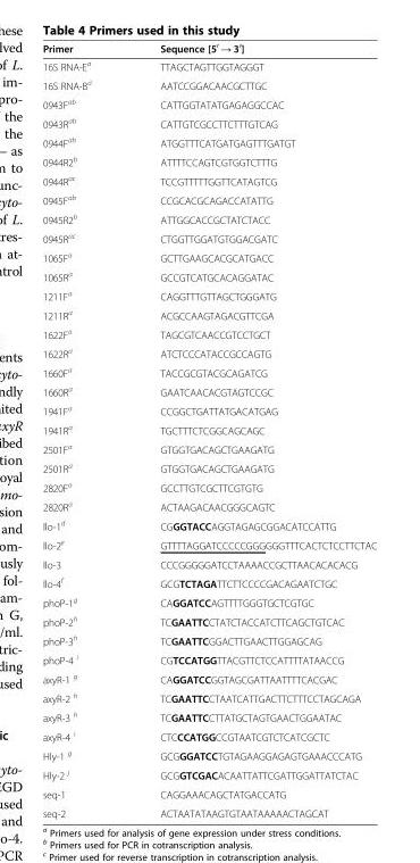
<table><thead><tr><td>Primer</td><td>Sequence [5<sup>′</sup> → 3<sup>′</sup>]</td></tr></thead><tbody><tr><td>16S RNA-E<sup>a</sup></td><td>TTAGCTAGTTGGTAGGGT</td></tr><tr><td>16S RNA-B<sup>a</sup></td><td>AATCCGGACAACGCTTGC</td></tr><tr><td>0943F<sup>ab</sup></td><td>CATTGGTATATGAGAGGCCAC</td></tr><tr><td>0943R<sup>ab</sup></td><td>CATTGTCGCCTTCTTTGTCAG</td></tr><tr><td>0944F<sup>ab</sup></td><td>ATGGTTTCATGATGAGTTTGATGT</td></tr><tr><td>0944R2<sup>b</sup></td><td>ATTTTCCAGTCGTGGTCTTTG</td></tr><tr><td>0944R<sup>ac</sup></td><td>TCCGTTTTTGGTTCATAGTCG</td></tr><tr><td>0945F<sup>ab</sup></td><td>CCGCACGCAGACCATATTG</td></tr><tr><td>0945R2<sup>b</sup></td><td>ATTGGCACCGCTATCTACC</td></tr><tr><td>0945R<sup>ac</sup></td><td>CTGGTTGGATGTGGACGATC</td></tr><tr><td>1065F<sup>a</sup></td><td>GCTTGAAGCACGCATGACC</td></tr><tr><td>1065R<sup>a</sup></td><td>GCCGTCATGCACAGGATAC</td></tr><tr><td>1211F<sup>a</sup></td><td>CAGGTTTGTTAGCTGGGATG</td></tr><tr><td>1211R<sup>a</sup></td><td>ACGCCAAGTAGACGTTCGA</td></tr><tr><td>1622F<sup>a</sup></td><td>TAGCGTCAACCGTCCTGCT</td></tr><tr><td>1622R<sup>a</sup></td><td>ATCTCCCATACCGCCAGTG</td></tr><tr><td>1660F<sup>a</sup></td><td>TACCGCGTACGCAGATCG</td></tr><tr><td>1660R<sup>a</sup></td><td>GAATCAACACGTAGTCCGC</td></tr><tr><td>1941F<sup>a</sup></td><td>CCGGCTGATTATGACATGAG</td></tr><tr><td>1941R<sup>a</sup></td><td>TGCTTTCTCGGCAGCAGC</td></tr><tr><td>2501F<sup>a</sup></td><td>GTGGTGACAGCTGAAGATG</td></tr><tr><td>2501R<sup>a</sup></td><td>GTGGTGACAGCTGAAGATG</td></tr><tr><td>2820F<sup>a</sup></td><td>GCCTTGTCGCTTCGTGTG</td></tr><tr><td>2820R<sup>a</sup></td><td>ACTAAGACAACGGGCAGTC</td></tr><tr><td>llo-1<sup>d</sup></td><td>CGGGTACCAGGTAGAGCGGACATCCATTG</td></tr><tr><td>llo-2<sup>e</sup></td><td>GTTTTAGGATCCCCCGGGGGGTTTCACTCTCCTTCTAC</td></tr><tr><td>llo-3</td><td>CCCGGGGGATCCTAAAACCGCTTAACACACACG</td></tr><tr><td>llo-4<sup>f</sup></td><td>GCGTCTAGATTCTTCCCCGACAGAATCTGC</td></tr><tr><td>phoP-1<sup>g</sup></td><td>CAGGATCCAGTTTTGGGTGCTCGTGC</td></tr><tr><td>phoP-2<sup>h</sup></td><td>TCGAATTCCTATCTACCATCTTCAGCTGTCAC</td></tr><tr><td>phoP-3<sup>h</sup></td><td>TCGAATTCGGACTTGAACTTGGAGCAG</td></tr><tr><td>phoP-4 <sup>i</sup></td><td>CGTCCATGGTTACGTTCTCCATTTTATAACCG</td></tr><tr><td>axyR-1 <sup>g</sup></td><td>CAGGATCCGGTAGCGATTAATTTTCACGAC</td></tr><tr><td>axyR-2 <sup>h</sup></td><td>TCGAATTCCTAATCATTGACTTCTTTCCTAGCAGA</td></tr><tr><td>axyR-3 <sup>h</sup></td><td>TCGAATTCCTTATGCTAGTGAACTGGAATAC</td></tr><tr><td>axyR-4 <sup>i</sup></td><td>CTCCCATGGCCGTAATCGTCTCATCGCTC</td></tr><tr><td>Hly-1 <sup>g</sup></td><td>GCGGGATCCTGTAGAAGGAGAGTGAAACCCATG</td></tr><tr><td>Hly-2 <sup>j</sup></td><td>GCGGTCGACACAATTATTCGATTGGATTATCTAC</td></tr><tr><td>seq-1</td><td>CAGGAAACAGCTATGACCATG</td></tr><tr><td>seq-2</td><td>ACTAATATAAGTGTAATAAAAACTAGCAT</td></tr></tbody></table>